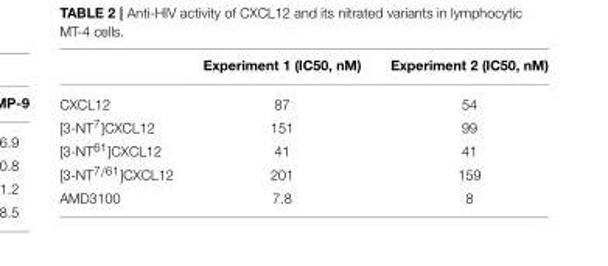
<table><thead><tr><td></td><td>Experiment 1 (IC50, nM)</td><td>Experiment 2 (IC50, nM)</td></tr></thead><tbody><tr><td>CXCL12</td><td>87</td><td>54</td></tr><tr><td>[3-NT<sup>7</sup>]CXCL12</td><td>151</td><td>99</td></tr><tr><td>[3-NT<sup>61</sup>]CXCL12</td><td>41</td><td>41</td></tr><tr><td>[3-NT<sup>7/61</sup>]CXCL12</td><td>201</td><td>159</td></tr><tr><td>AMD3100</td><td>7.8</td><td>8</td></tr></tbody></table>